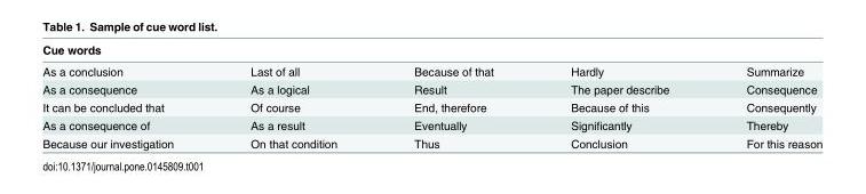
<table><thead><tr><td colspan="5">Cue words</td></tr><tr><td>As a conclusion</td><td>Last of all</td><td>Because of that</td><td>Hardly</td><td>Summarize</td></tr></thead><tbody><tr><td>As a consequence</td><td>As a logical</td><td>Result</td><td>The paper describe</td><td>Consequence</td></tr><tr><td>It can be concluded that</td><td>Of course</td><td>End, therefore</td><td>Because of this</td><td>Consequently</td></tr><tr><td>As a consequence of</td><td>As a result</td><td>Eventually</td><td>Significantly</td><td>Thereby</td></tr><tr><td>Because our investigation</td><td>On that condition</td><td>Thus</td><td>Conclusion</td><td>For this reason</td></tr></tbody></table>